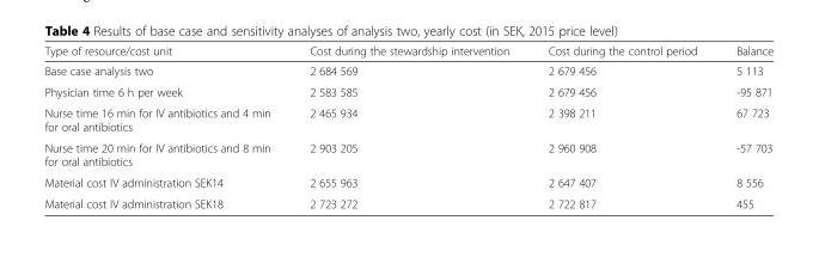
<table><thead><tr><td>Type of resource/cost unit</td><td>Cost during the stewardship intervention</td><td>Cost during the control period</td><td>Balance</td></tr></thead><tbody><tr><td>Base case analysis two</td><td>2 684 569</td><td>2 679 456</td><td>5 113</td></tr><tr><td>Physician time 6 h per week</td><td>2 583 585</td><td>2 679 456</td><td>-95 871</td></tr><tr><td>Nurse time 16 min for IV antibiotics and 4 min for oral antibiotics</td><td>2 465 934</td><td>2 398 211</td><td>67 723</td></tr><tr><td>Nurse time 20 min for IV antibiotics and 8 min for oral antibiotics</td><td>2 903 205</td><td>2 960 908</td><td>-57 703</td></tr><tr><td>Material cost IV administration SEK14</td><td>2 655 963</td><td>2 647 407</td><td>8 556</td></tr><tr><td>Material cost IV administration SEK18</td><td>2 723 272</td><td>2 722 817</td><td>455</td></tr></tbody></table>